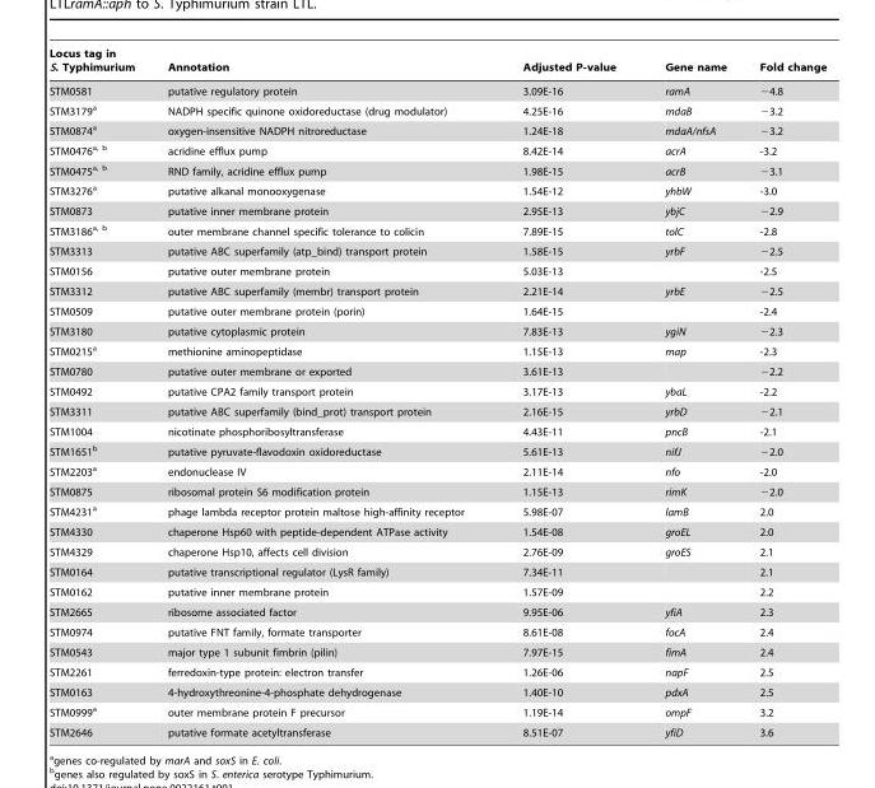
<table><thead><tr><td>Locus tag in S. Typhimurium</td><td>Annotation</td><td>Adjusted P-value</td><td>Gene name</td><td>Fold change</td></tr></thead><tbody><tr><td>STM0581</td><td>putative regulatory protein</td><td>3.09E-16</td><td>ramA</td><td>−4.8</td></tr><tr><td>STM3179<sup>a</sup></td><td>NADPH specific quinone oxidoreductase (drug modulator)</td><td>4.25E-16</td><td>mdaB</td><td>−3.2</td></tr><tr><td>STM0874<sup>a</sup></td><td>oxygen-insensitive NADPH nitroreductase</td><td>1.24E-18</td><td>mdaA/nfsA</td><td>−3.2</td></tr><tr><td>STM0476a, b</td><td>acridine efflux pump</td><td>8.42E-14</td><td>acrA</td><td>-3.2</td></tr><tr><td>STM0475a, b</td><td>RND family, acridine efflux pump</td><td>1.98E-15</td><td>acrB</td><td>−3.1</td></tr><tr><td>STM3276<sup>a</sup></td><td>putative alkanal monooxygenase</td><td>1.54E-12</td><td>yhbW</td><td>-3.0</td></tr><tr><td>STM0873</td><td>putative inner membrane protein</td><td>2.95E-13</td><td>ybjC</td><td>−2.9</td></tr><tr><td>STM3186a, b</td><td>outer membrane channel specific tolerance to colicin</td><td>7.89E-15</td><td>tolC</td><td>-2.8</td></tr><tr><td>STM3313</td><td>putative ABC superfamily (atp_bind) transport protein</td><td>1.58E-15</td><td>yrbF</td><td>−2.5</td></tr><tr><td>STM0156</td><td>putative outer membrane protein</td><td>5.03E-13</td><td></td><td>-2.5</td></tr><tr><td>STM3312</td><td>putative ABC superfamily (membr) transport protein</td><td>2.21E-14</td><td>yrbE</td><td>−2.5</td></tr><tr><td>STM0509</td><td>putative outer membrane protein (porin)</td><td>1.64E-15</td><td></td><td>-2.4</td></tr><tr><td>STM3180</td><td>putative cytoplasmic protein</td><td>7.83E-13</td><td>ygiN</td><td>−2.3</td></tr><tr><td>STM0215<sup>a</sup></td><td>methionine aminopeptidase</td><td>1.15E-13</td><td>map</td><td>-2.3</td></tr><tr><td>STM0780</td><td>putative outer membrane or exported</td><td>3.61E-13</td><td></td><td>−2.2</td></tr><tr><td>STM0492</td><td>putative CPA2 family transport protein</td><td>3.17E-13</td><td>ybaL</td><td>-2.2</td></tr><tr><td>STM3311</td><td>putative ABC superfamily (bind_prot) transport protein</td><td>2.16E-15</td><td>yrbD</td><td>−2.1</td></tr><tr><td>STM1004</td><td>nicotinate phosphoribosyltransferase</td><td>4.43E-11</td><td>pncB</td><td>-2.1</td></tr><tr><td>STM1651<sup>b</sup></td><td>putative pyruvate-flavodoxin oxidoreductase</td><td>5.61E-13</td><td>nifJ</td><td>−2.0</td></tr><tr><td>STM2203<sup>a</sup></td><td>endonuclease IV</td><td>2.11E-14</td><td>nfo</td><td>-2.0</td></tr><tr><td>STM0875</td><td>ribosomal protein S6 modification protein</td><td>1.15E-13</td><td>rimK</td><td>−2.0</td></tr><tr><td>STM4231<sup>a</sup></td><td>phage lambda receptor protein maltose high-affinity receptor</td><td>5.98E-07</td><td>lamB</td><td>2.0</td></tr><tr><td>STM4330</td><td>chaperone Hsp60 with peptide-dependent ATPase activity</td><td>1.54E-08</td><td>groEL</td><td>2.0</td></tr><tr><td>STM4329</td><td>chaperone Hsp10, affects cell division</td><td>2.76E-09</td><td>groES</td><td>2.1</td></tr><tr><td>STM0164</td><td>putative transcriptional regulator (LysR family)</td><td>7.34E-11</td><td></td><td>2.1</td></tr><tr><td>STM0162</td><td>putative inner membrane protein</td><td>1.57E-09</td><td></td><td>2.2</td></tr><tr><td>STM2665</td><td>ribosome associated factor</td><td>9.95E-06</td><td>yfiA</td><td>2.3</td></tr><tr><td>STM0974</td><td>putative FNT family, formate transporter</td><td>8.61E-08</td><td>focA</td><td>2.4</td></tr><tr><td>STM0543</td><td>major type 1 subunit fimbrin (pilin)</td><td>7.97E-15</td><td>fimA</td><td>2.4</td></tr><tr><td>STM2261</td><td>ferredoxin-type protein: electron transfer</td><td>1.26E-06</td><td>napF</td><td>2.5</td></tr><tr><td>STM0163</td><td>4-hydroxythreonine-4-phosphate dehydrogenase</td><td>1.40E-10</td><td>pdxA</td><td>2.5</td></tr><tr><td>STM0999<sup>a</sup></td><td>outer membrane protein F precursor</td><td>1.19E-14</td><td>ompF</td><td>3.2</td></tr><tr><td>STM2646</td><td>putative formate acetyltransferase</td><td>8.51E-07</td><td>yfiD</td><td>3.6</td></tr></tbody></table>